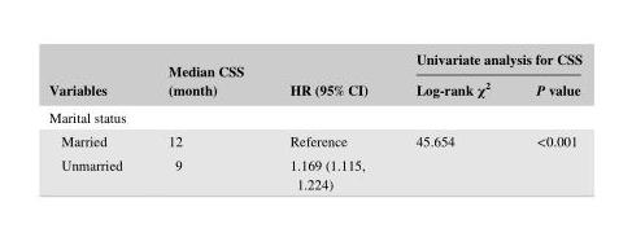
<table><thead><tr><td rowspan="2">Variables</td><td rowspan="2">Median CSS (month)</td><td rowspan="2">HR (95% CI)</td><td colspan="2">Univariate analysis for CSS</td></tr><tr><td>Log- rank χ<sup>2</sup></td><td>P value</td></tr></thead><tbody><tr><td colspan="5">Marital status</td></tr><tr><td>Married</td><td>12</td><td>Reference</td><td>45.654</td><td>&lt;0.001</td></tr><tr><td>Unmarried</td><td>9</td><td>1.169 (1.115, 1.224)</td><td></td><td></td></tr></tbody></table>